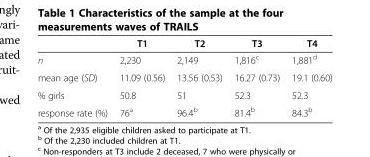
<table><thead><tr><td></td><td>T1</td><td>T2</td><td>T3</td><td>T4</td></tr></thead><tbody><tr><td>n</td><td>2,230</td><td>2,149</td><td>1,816<sup>c</sup></td><td>1,881<sup>d</sup></td></tr><tr><td>mean age (SD)</td><td>11.09 (0.56)</td><td>13.56 (0.53)</td><td>16.27 (0.73)</td><td>19.1 (0.60)</td></tr><tr><td>% girls</td><td>50.8</td><td>51</td><td>52.3</td><td>52.3</td></tr><tr><td>response rate (%)</td><td>76<sup>a</sup></td><td>96.4<sup>b</sup></td><td>81.4<sup>b</sup></td><td>84.3<sup>b</sup></td></tr></tbody></table>